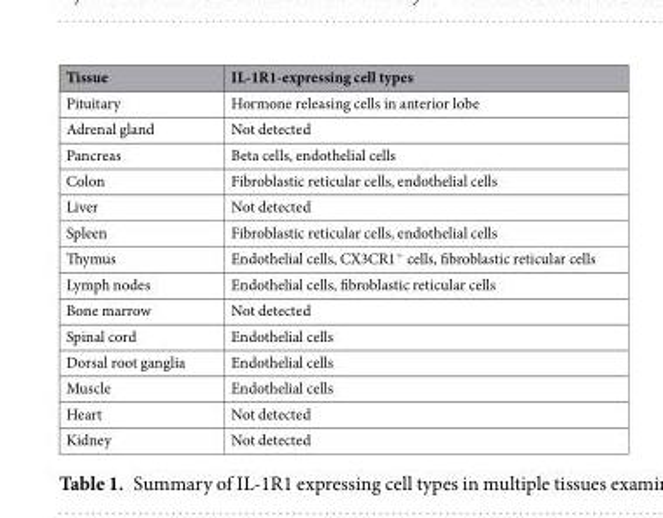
<table><thead><tr><td>Tissue</td><td>IL-1R1-expressing cell types</td></tr></thead><tbody><tr><td>Pituitary</td><td>Hormone releasing cells in anterior lobe</td></tr><tr><td>Adrenal gland</td><td>Not detected</td></tr><tr><td>Pancreas</td><td>Beta cells, endothelial cells</td></tr><tr><td>Colon</td><td>Fibroblastic reticular cells, endothelial cells</td></tr><tr><td>Liver</td><td>Not detected</td></tr><tr><td>Spleen</td><td>Fibroblastic reticular cells, endothelial cells</td></tr><tr><td>Thymus</td><td>Endothelial cells, CX3CR1<sup>+</sup> cells, fibroblastic reticular cells</td></tr><tr><td>Lymph nodes</td><td>Endothelial cells, fibroblastic reticular cells</td></tr><tr><td>Bone marrow</td><td>Not detected</td></tr><tr><td>Spinal cord</td><td>Endothelial cells</td></tr><tr><td>Dorsal root ganglia</td><td>Endothelial cells</td></tr><tr><td>Muscle</td><td>Endothelial cells</td></tr><tr><td>Heart</td><td>Not detected</td></tr><tr><td>Kidney</td><td>Not detected</td></tr></tbody></table>